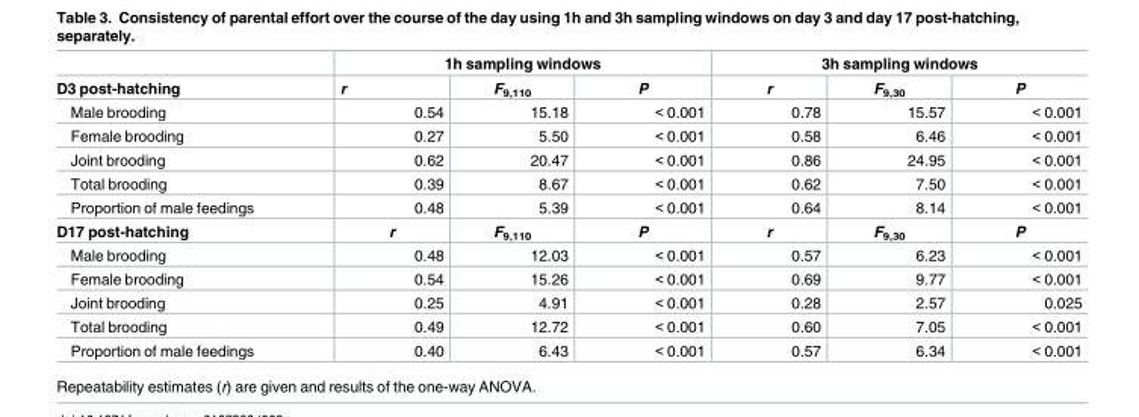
<table><thead><tr><td rowspan="2">D3 post-hatching</td><td colspan="3">1h sampling windows</td><td colspan="3">3h sampling windows</td></tr><tr><td>r</td><td>F<sub>9,110</sub></td><td>P</td><td>r</td><td>F<sub>9,30</sub></td><td>P</td></tr></thead><tbody><tr><td>Male brooding</td><td>0.54</td><td>15.18</td><td>&lt; 0.001</td><td>0.78</td><td>15.57</td><td>&lt; 0.001</td></tr><tr><td>Female brooding</td><td>0.27</td><td>5.50</td><td>&lt; 0.001</td><td>0.58</td><td>6.46</td><td>&lt; 0.001</td></tr><tr><td>Joint brooding</td><td>0.62</td><td>20.47</td><td>&lt; 0.001</td><td>0.86</td><td>24.95</td><td>&lt; 0.001</td></tr><tr><td>Total brooding</td><td>0.39</td><td>8.67</td><td>&lt; 0.001</td><td>0.62</td><td>7.50</td><td>&lt; 0.001</td></tr><tr><td>Proportion of male feedings</td><td>0.48</td><td>5.39</td><td>&lt; 0.001</td><td>0.64</td><td>8.14</td><td>&lt; 0.001</td></tr><tr><td>D17 post-hatching</td><td>r</td><td>F<sub>9,110</sub></td><td>P</td><td>r</td><td>F<sub>9,30</sub></td><td>P</td></tr><tr><td>Male brooding</td><td>0.48</td><td>12.03</td><td>&lt; 0.001</td><td>0.57</td><td>6.23</td><td>&lt; 0.001</td></tr><tr><td>Female brooding</td><td>0.54</td><td>15.26</td><td>&lt; 0.001</td><td>0.69</td><td>9.77</td><td>&lt; 0.001</td></tr><tr><td>Joint brooding</td><td>0.25</td><td>4.91</td><td>&lt; 0.001</td><td>0.28</td><td>2.57</td><td>0.025</td></tr><tr><td>Total brooding</td><td>0.49</td><td>12.72</td><td>&lt; 0.001</td><td>0.60</td><td>7.05</td><td>&lt; 0.001</td></tr><tr><td>Proportion of male feedings</td><td>0.40</td><td>6.43</td><td>&lt; 0.001</td><td>0.57</td><td>6.34</td><td>&lt; 0.001</td></tr></tbody></table>